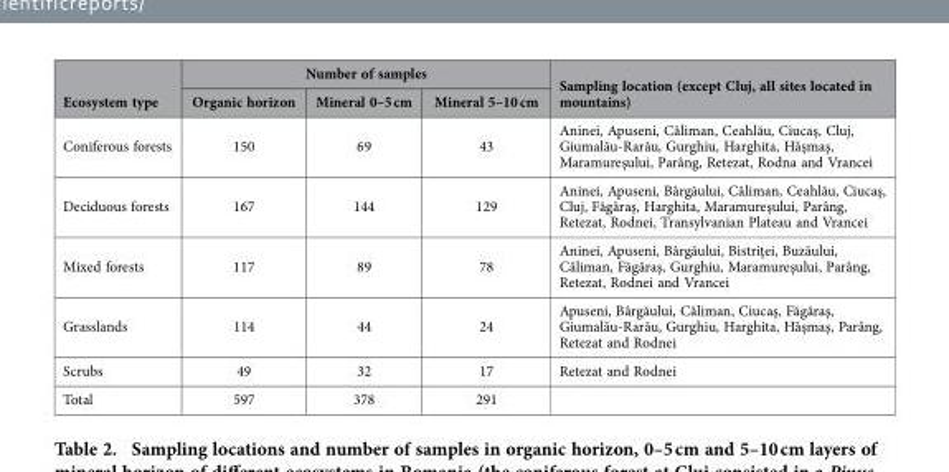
<table><thead><tr><td rowspan="2">Ecosystem type</td><td colspan="3">Number of samples</td><td rowspan="2">Sampling location (except Cluj, all sites located in mountains)</td></tr><tr><td>Organic horizon</td><td>Mineral 0–5 cm</td><td>Mineral 5–10 cm</td></tr></thead><tbody><tr><td>Coniferous forests</td><td>150</td><td>69</td><td>43</td><td>Aninei, Apuseni, Căliman, Ceahlău, Ciucaş, Cluj, Giumalău-Rarău, Gurghiu, Harghita, Hăşmaş, Maramureşului, Parâng, Retezat, Rodna and Vrancei</td></tr><tr><td>Deciduous forests</td><td>167</td><td>144</td><td>129</td><td>Aninei, Apuseni, Bârgăului, Căliman, Ceahlău, Ciucaş, Cluj, Făgăraş, Harghita, Maramureşului, Parâng, Retezat, Rodnei, Transylvanian Plateau and Vrancei</td></tr><tr><td>Mixed forests</td><td>117</td><td>89</td><td>78</td><td>Aninei, Apuseni, Bârgăului, Bistriţei, Buzăului, Căliman, Făgăraş, Gurghiu, Maramureşului, Parâng, Retezat, Rodnei and Vrancei</td></tr><tr><td>Grasslands</td><td>114</td><td>44</td><td>24</td><td>Apuseni, Bârgăului, Căliman, Ciucaş, Făgăraş, Giumalău-Rarău, Gurghiu, Harghita, Hăşmaş, Parâng, Retezat and Rodnei</td></tr><tr><td>Scrubs</td><td>49</td><td>32</td><td>17</td><td>Retezat and Rodnei</td></tr><tr><td>Total</td><td>597</td><td>378</td><td>291</td><td></td></tr></tbody></table>